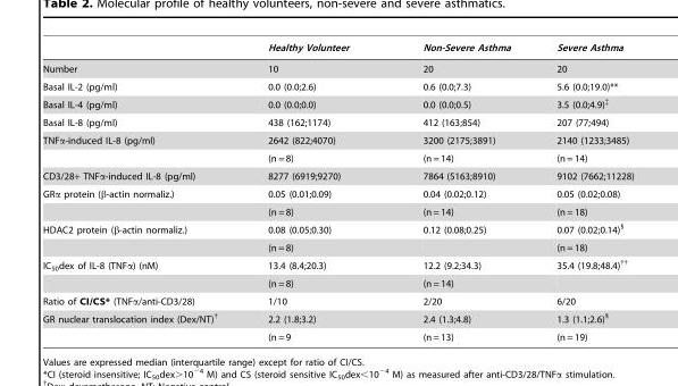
<table><thead><tr><td></td><td>Healthy Volunteer</td><td>Non-Severe Asthma</td><td>Severe Asthma</td></tr></thead><tbody><tr><td>Number</td><td>10</td><td>20</td><td>20</td></tr><tr><td>Basal IL-2 (pg/ml)</td><td>0.0 (0.0;2.6)</td><td>0.6 (0.0;7.3)</td><td>5.6 (0.0;19.0)**</td></tr><tr><td>Basal IL-4 (pg/ml)</td><td>0.0 (0.0;0.0)</td><td>0.0 (0.0;0.5)</td><td>3.5 (0.0;4.9)‡</td></tr><tr><td>Basal IL-8 (pg/ml)</td><td>438 (162;1174)</td><td>412 (163;854)</td><td>207 (77;494)</td></tr><tr><td rowspan="2">TNFα-induced IL-8 (pg/ml)</td><td>2642 (822;4070)</td><td>3200 (2175;3891)</td><td>2140 (1233;3485)</td></tr><tr><td>(n = 8)</td><td>(n = 14)</td><td>(n = 14)</td></tr><tr><td>CD3/28+ TNFα-induced IL-8 (pg/ml)</td><td>8277 (6919;9270)</td><td>7864 (5163;8910)</td><td>9102 (7662;11228)</td></tr><tr><td rowspan="2">GRα protein (β-actin normaliz.)</td><td>0.05 (0.01;0.09)</td><td>0.04 (0.02;0.12)</td><td>0.05 (0.02;0.08)</td></tr><tr><td>(n = 8)</td><td>(n = 14)</td><td>(n = 18)</td></tr><tr><td rowspan="2">HDAC2 protein (β-actin normaliz.)</td><td>0.08 (0.05;0.30)</td><td>0.12 (0.08;0.25)</td><td>0.07 (0.02;0.14)§</td></tr><tr><td>(n = 8)</td><td></td><td>(n = 18)</td></tr><tr><td rowspan="2">IC<sub>50</sub>dex of IL-8 (TNFα) (nM)</td><td>13.4 (8.4;20.3)</td><td>12.2 (9.2;34.3)</td><td>35.4 (19.8;48.4)††</td></tr><tr><td>(n = 8)</td><td>(n = 14)</td><td></td></tr><tr><td>Ratio of CI/CS* (TNFα/anti-CD3/28)</td><td>1/10</td><td>2/20</td><td>6/20</td></tr><tr><td rowspan="2">GR nuclear translocation index (Dex/NT)†</td><td>2.2 (1.8;3.2)</td><td>2.4 (1.3;4.8)</td><td>1.3 (1.1;2.6)§</td></tr><tr><td>(n = 9</td><td>(n = 13)</td><td>(n = 19)</td></tr></tbody></table>